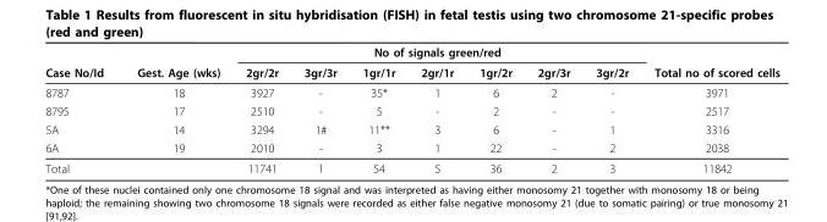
<table><thead><tr><td rowspan="2">Case No/Id</td><td rowspan="2">Gest. Age (wks)</td><td colspan="7">No of signals green/red</td><td rowspan="2">Total no of scored cells</td></tr><tr><td>2gr/2r</td><td>3gr/3r</td><td>1gr/1r</td><td>2gr/1r</td><td>1gr/2r</td><td>2gr/3r</td><td>3gr/2r</td></tr></thead><tbody><tr><td>8787</td><td>18</td><td>3927</td><td>-</td><td>35*</td><td>1</td><td>6</td><td>2</td><td>-</td><td>3971</td></tr><tr><td>8795</td><td>17</td><td>2510</td><td>-</td><td>5</td><td>-</td><td>2</td><td>-</td><td>-</td><td>2517</td></tr><tr><td>5A</td><td>14</td><td>3294</td><td>1#</td><td>11**</td><td>3</td><td>6</td><td>-</td><td>1</td><td>3316</td></tr><tr><td>6A</td><td>19</td><td>2010</td><td>-</td><td>3</td><td>1</td><td>22</td><td>-</td><td>2</td><td>2038</td></tr><tr><td>Total</td><td></td><td>11741</td><td>1</td><td>54</td><td>5</td><td>36</td><td>2</td><td>3</td><td>11842</td></tr></tbody></table>